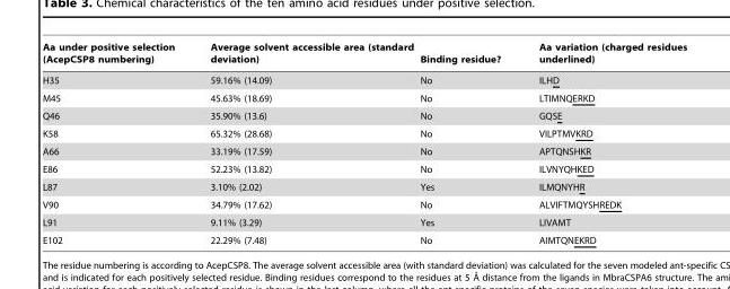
<table><thead><tr><td>Aa under positive selection (AcepCSP8 numbering)</td><td>Average solvent accessible area (standard deviation)</td><td>Binding residue?</td><td>Aa variation (charged residues underlined)</td></tr></thead><tbody><tr><td>H35</td><td>59.16% (14.09)</td><td>No</td><td>ILHD</td></tr><tr><td>M45</td><td>45.63% (18.69)</td><td>No</td><td>LTIMNQERKD</td></tr><tr><td>Q46</td><td>35.90% (13.6)</td><td>No</td><td>GQSE</td></tr><tr><td>K58</td><td>65.32% (28.68)</td><td>No</td><td>VILPTMVKRD</td></tr><tr><td>A66</td><td>33.19% (17.59)</td><td>No</td><td>APTQNSHKR</td></tr><tr><td>E86</td><td>52.23% (13.82)</td><td>No</td><td>ILVNYQHKED</td></tr><tr><td>L87</td><td>3.10% (2.02)</td><td>Yes</td><td>ILMQNYHR</td></tr><tr><td>V90</td><td>34.79% (17.62)</td><td>No</td><td>ALVIFTMQYSHREDK</td></tr><tr><td>L91</td><td>9.11% (3.29)</td><td>Yes</td><td>LIVAMT</td></tr><tr><td>E102</td><td>22.29% (7.48)</td><td>No</td><td>AIMTQNEKRD</td></tr></tbody></table>